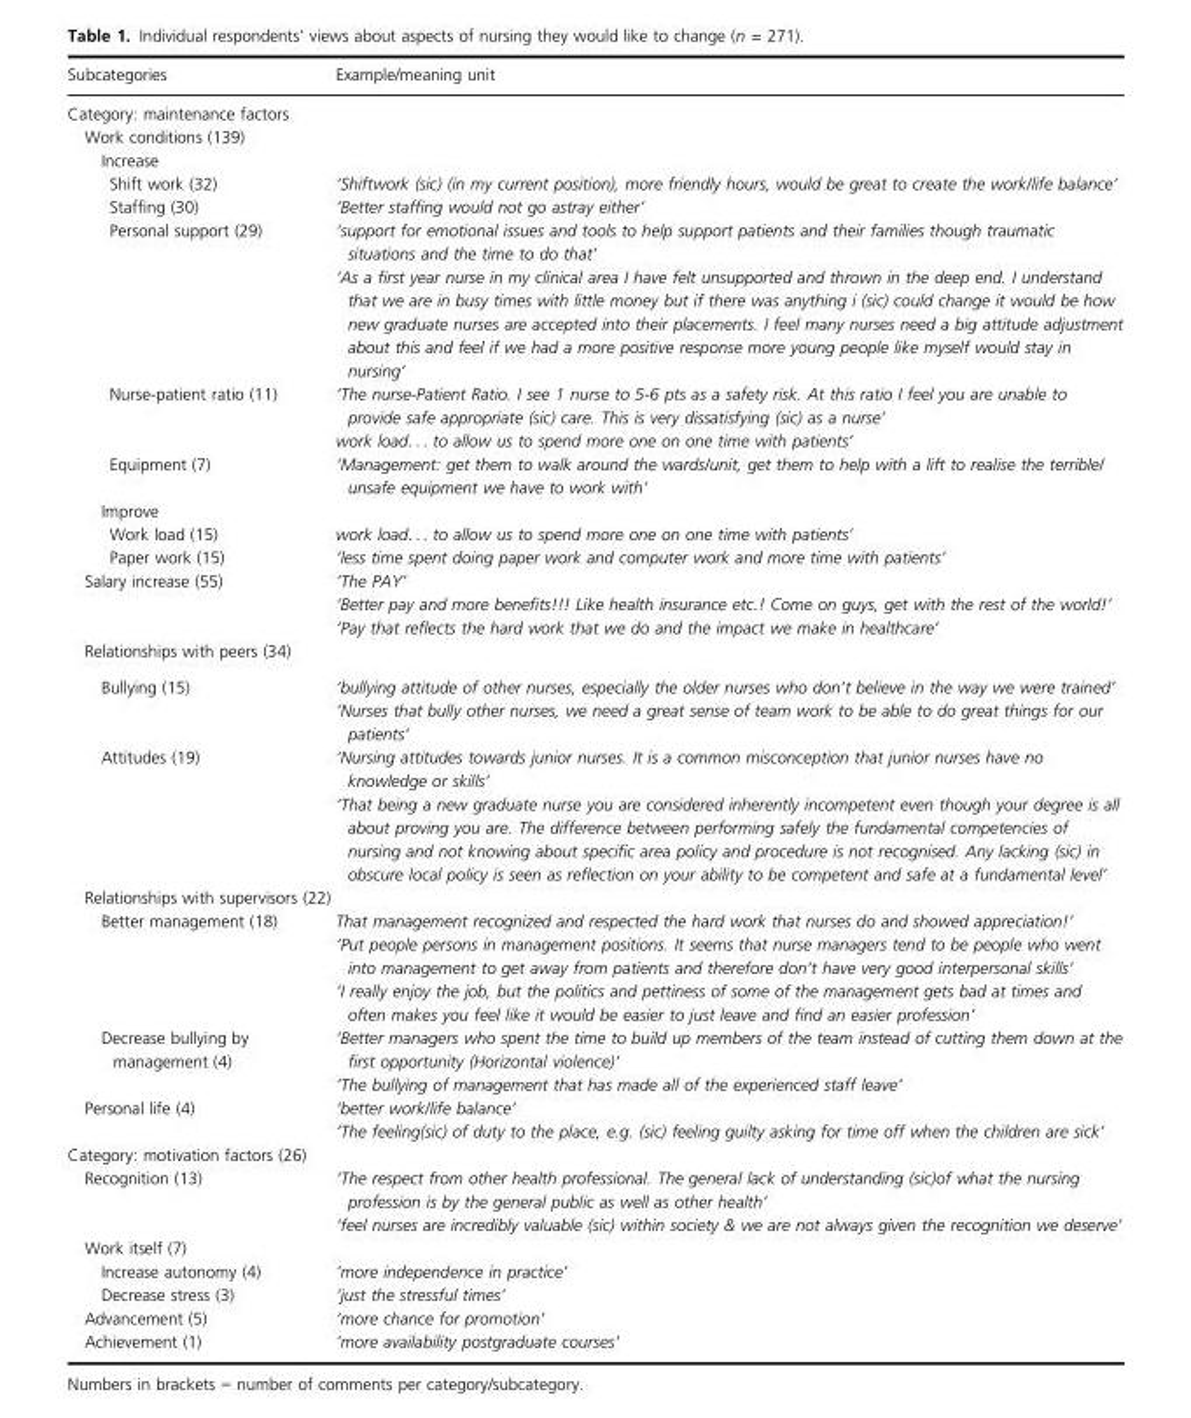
<table><thead><tr><td>Subcategories</td><td>Example/meaning unit</td></tr></thead><tbody><tr><td colspan="2">Category: maintenance factors</td></tr><tr><td colspan="2">Work conditions (139)</td></tr><tr><td colspan="2">Increase</td></tr><tr><td>Shift work (32)</td><td>‘Shiftwork (sic) (in my current position), more friendly hours, would be great to create the work/life balance’</td></tr><tr><td>Staffing (30)</td><td>‘Better staffing would not go astray either’</td></tr><tr><td rowspan="2">Personal support (29)</td><td>‘support for emotional issues and tools to help support patients and their families though traumatic situations and the time to do that’</td></tr><tr><td>‘As a first year nurse in my clinical area I have felt unsupported and thrown in the deep end. I understand that we are in busy times with little money but if there was anything i (sic) could change it would be how new graduate nurses are accepted into their placements. I feel many nurses need a big attitude adjustment about this and feel if we had a more positive response more young people like myself would stay in nursing’</td></tr><tr><td rowspan="2">Nurse-patient ratio (11)</td><td>‘The nurse-Patient Ratio. I see 1 nurse to 5-6 pts as a safety risk. At this ratio I feel you are unable to provide safe appropriate (sic) care. This is very dissatisfying (sic) as a nurse’</td></tr><tr><td>work load. . . to allow us to spend more one on one time with patients’</td></tr><tr><td>Equipment (7)</td><td>‘Management: get them to walk around the wards/unit, get them to help with a lift to realise the terrible/ unsafe equipment we have to work with’</td></tr><tr><td colspan="2">Improve</td></tr><tr><td>Work load (15)</td><td>work load. . . to allow us to spend more one on one time with patients’</td></tr><tr><td>Paper work (15)</td><td>‘less time spent doing paper work and computer work and more time with patients’</td></tr><tr><td rowspan="3">Salary increase (55)</td><td>‘The PAY’</td></tr><tr><td>‘Better pay and more benefits!!! Like health insurance etc.! Come on guys, get with the rest of the world!’</td></tr><tr><td>‘Pay that reflects the hard work that we do and the impact we make in healthcare’</td></tr><tr><td colspan="2">Relationships with peers (34)</td></tr><tr><td rowspan="2">Bullying (15)</td><td>‘bullying attitude of other nurses, especially the older nurses who don’t believe in the way we were trained’</td></tr><tr><td>‘Nurses that bully other nurses, we need a great sense of team work to be able to do great things for our patients’</td></tr><tr><td rowspan="2">Attitudes (19)</td><td>‘Nursing attitudes towards junior nurses. It is a common misconception that junior nurses have no knowledge or skills’</td></tr><tr><td>‘That being a new graduate nurse you are considered inherently incompetent even though your degree is all about proving you are. The difference between performing safely the fundamental competencies of nursing and not knowing about specific area policy and procedure is not recognised. Any lacking (sic) in obscure local policy is seen as reflection on your ability to be competent and safe at a fundamental level’</td></tr><tr><td colspan="2">Relationships with supervisors (22)</td></tr><tr><td rowspan="3">Better management (18)</td><td>That management recognized and respected the hard work that nurses do and showed appreciation!’</td></tr><tr><td>‘Put people persons in management positions. It seems that nurse managers tend to be people who went into management to get away from patients and therefore don’t have very good interpersonal skills’</td></tr><tr><td>‘I really enjoy the job, but the politics and pettiness of some of the management gets bad at times and often makes you feel like it would be easier to just leave and find an easier profession’</td></tr><tr><td rowspan="2">Decrease bullying by management (4)</td><td>‘Better managers who spent the time to build up members of the team instead of cutting them down at the first opportunity (Horizontal violence)’</td></tr><tr><td>‘The bullying of management that has made all of the experienced staff leave’</td></tr><tr><td rowspan="2">Personal life (4)</td><td>‘better work/life balance’</td></tr><tr><td>‘The feeling(sic) of duty to the place, e.g. (sic) feeling guilty asking for time off when the children are sick’</td></tr><tr><td colspan="2">Category: motivation factors (26)</td></tr><tr><td rowspan="2">Recognition (13)</td><td>‘The respect from other health professional. The general lack of understanding (sic)of what the nursing profession is by the general public as well as other health’</td></tr><tr><td>‘feel nurses are incredibly valuable (sic) within society &amp; we are not always given the recognition we deserve’</td></tr><tr><td colspan="2">Work itself (7)</td></tr><tr><td>Increase autonomy (4)</td><td>‘more independence in practice’</td></tr><tr><td>Decrease stress (3)</td><td>‘just the stressful times’</td></tr><tr><td>Advancement (5)</td><td>‘more chance for promotion’</td></tr><tr><td>Achievement (1)</td><td>‘more availability postgraduate courses’</td></tr></tbody></table>